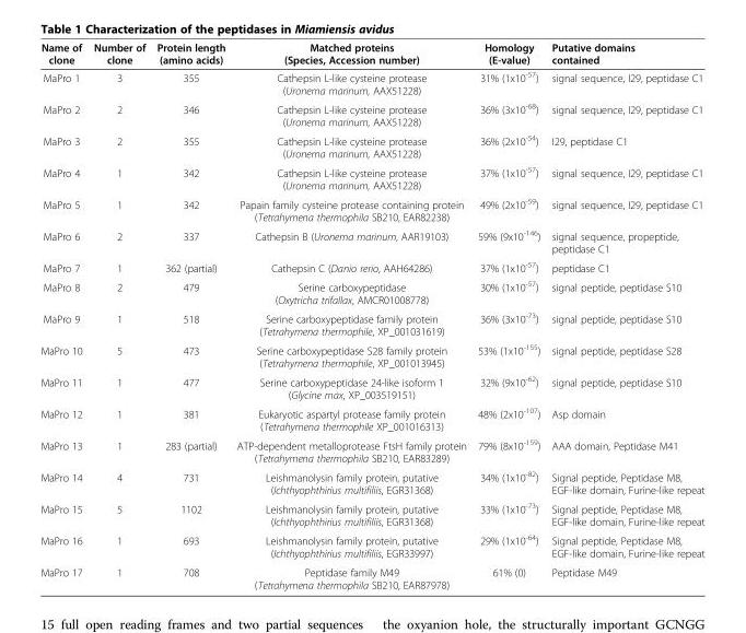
<table><thead><tr><td>Name of clone</td><td>Number of clone</td><td>Protein length (amino acids)</td><td>Matched proteins (Species, Accession number)</td><td>Homology (E-value)</td><td>Putative domains contained</td></tr></thead><tbody><tr><td>MaPro 1</td><td>3</td><td>355</td><td>Cathepsin L-like cysteine protease (Uronema marinum, AAX51228)</td><td>31% (1x10<sup>-57</sup>)</td><td>signal sequence, I29, peptidase C1</td></tr><tr><td>MaPro 2</td><td>2</td><td>346</td><td>Cathepsin L-like cysteine protease (Uronema marinum, AAX51228)</td><td>36% (3x10<sup>-68</sup>)</td><td>signal sequence, I29, peptidase C1</td></tr><tr><td>MaPro 3</td><td>2</td><td>355</td><td>Cathepsin L-like cysteine protease (Uronema marinum, AAX51228)</td><td>36% (2x10<sup>-54</sup>)</td><td>I29, peptidase C1</td></tr><tr><td>MaPro 4</td><td>1</td><td>342</td><td>Cathepsin L-like cysteine protease (Uronema marinum, AAX51228)</td><td>37% (1x10<sup>-57</sup>)</td><td>signal sequence, I29, peptidase C1</td></tr><tr><td>MaPro 5</td><td>1</td><td>342</td><td>Papain family cysteine protease containing protein (Tetrahymena thermophila SB210, EAR82238)</td><td>49% (2x10<sup>-59</sup>)</td><td>signal sequence, I29, peptidase C1</td></tr><tr><td>MaPro 6</td><td>2</td><td>337</td><td>Cathepsin B (Uronema marinum, AAR19103)</td><td>59% (9x10<sup>-146</sup>)</td><td>signal sequence, propeptide, peptidase C1</td></tr><tr><td>MaPro 7</td><td>1</td><td>362 (partial)</td><td>Cathepsin C (Danio rerio, AAH64286)</td><td>37% (1x10<sup>-57</sup>)</td><td>peptidase C1</td></tr><tr><td>MaPro 8</td><td>2</td><td>479</td><td>Serine carboxypeptidase (Oxytricha trifallax, AMCR01008778)</td><td>30% (1x10<sup>-57</sup>)</td><td>signal peptide, peptidase S10</td></tr><tr><td>MaPro 9</td><td>1</td><td>518</td><td>Serine carboxypeptidase family protein (Tetrahymena thermophile, XP_001031619)</td><td>36% (3x10<sup>-73</sup>)</td><td>signal peptide, peptidase S10</td></tr><tr><td>MaPro 10</td><td>5</td><td>473</td><td>Serine carboxypeptidase S28 family protein (Tetrahymena thermophile, XP_001013945)</td><td>53% (1x10<sup>-155</sup>)</td><td>signal peptide, peptidase S28</td></tr><tr><td>MaPro 11</td><td>1</td><td>477</td><td>Serine carboxypeptidase 24-like isoform 1 (Glycine max, XP_003519151)</td><td>32% (9x10<sup>-62</sup>)</td><td>signal peptide, peptidase S10</td></tr><tr><td>MaPro 12</td><td>1</td><td>381</td><td>Eukaryotic aspartyl protease family protein (Tetrahymena thermophile XP_001016313)</td><td>48% (2x10<sup>-107</sup>)</td><td>Asp domain</td></tr><tr><td>MaPro 13</td><td>1</td><td>283 (partial)</td><td>ATP-dependent metalloprotease FtsH family protein (Tetrahymena thermophila SB210, EAR83289)</td><td>79% (8x10<sup>-159</sup>)</td><td>AAA domain, Peptidase M41</td></tr><tr><td>MaPro 14</td><td>4</td><td>731</td><td>Leishmanolysin family protein, putative (Ichthyophthirius multifiliis, EGR31368)</td><td>34% (1x10<sup>-82</sup>)</td><td>Signal peptide, Peptidase M8, EGF-like domain, Furine-like repeat</td></tr><tr><td>MaPro 15</td><td>5</td><td>1102</td><td>Leishmanolysin family protein, putative (Ichthyophthirius multifiliis, EGR31368)</td><td>33% (1x10<sup>-73</sup>)</td><td>Signal peptide, Peptidase M8, EGF-like domain, Furine-like repeat</td></tr><tr><td>MaPro 16</td><td>1</td><td>693</td><td>Leishmanolysin family protein, putative (Ichthyophthirius multifiliis, EGR33997)</td><td>29% (1x10<sup>-64</sup>)</td><td>Signal peptide, Peptidase M8, EGF-like domain, Furine-like repeat</td></tr><tr><td>MaPro 17</td><td>1</td><td>708</td><td>Peptidase family M49 (Tetrahymena thermophila SB210, EAR87978)</td><td>61% (0)</td><td>Peptidase M49</td></tr></tbody></table>